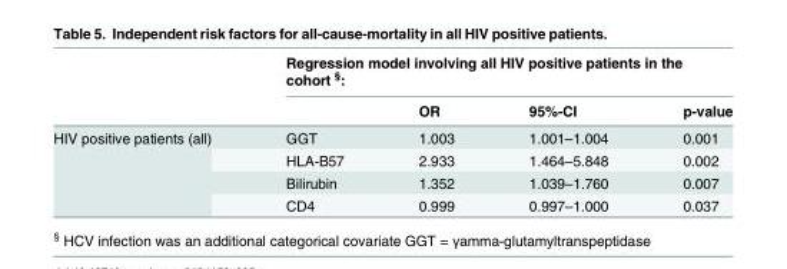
<table><thead><tr><td rowspan="2"></td><td colspan="4">Regression model involving all HIV positive patients in the cohort <sup>§</sup>:</td></tr><tr><td></td><td>OR</td><td>95%-CI</td><td>p-value</td></tr></thead><tbody><tr><td rowspan="4">HIV positive patients (all)</td><td>GGT</td><td>1.003</td><td>1.001–1.004</td><td>0.001</td></tr><tr><td>HLA-B57</td><td>2.933</td><td>1.464–5.848</td><td>0.002</td></tr><tr><td>Bilirubin</td><td>1.352</td><td>1.039–1.760</td><td>0.007</td></tr><tr><td>CD4</td><td>0.999</td><td>0.997–1.000</td><td>0.037</td></tr></tbody></table>